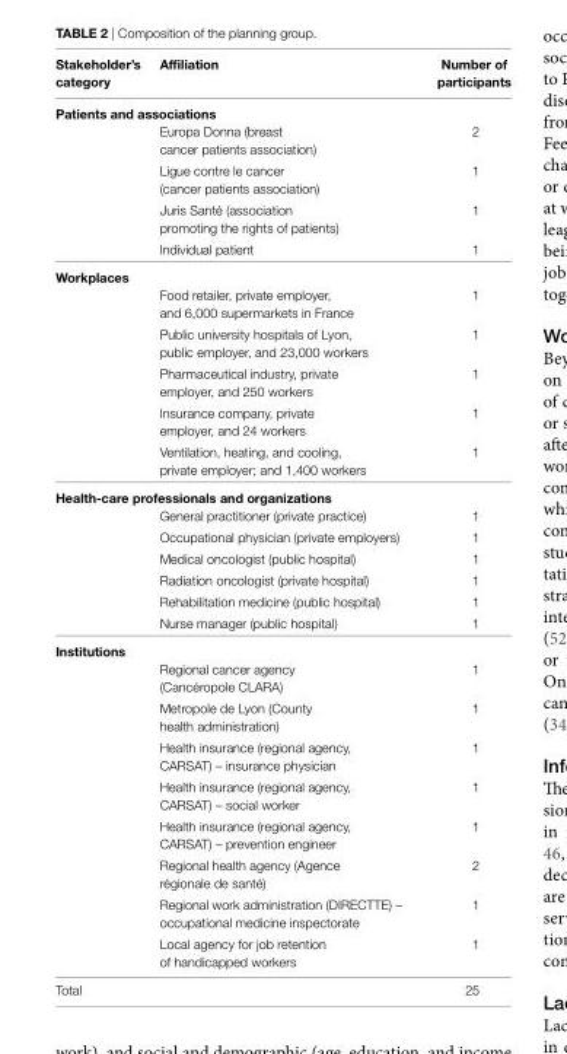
<table><thead><tr><td>stakeholder’s category</td><td>affiliation</td><td>number of participants</td></tr></thead><tbody><tr><td colspan="3">Patients and associations</td></tr><tr><td></td><td>Europa Donna (breast cancer patients association)</td><td>2</td></tr><tr><td></td><td>Ligue contre le cancer (cancer patients association)</td><td>1</td></tr><tr><td></td><td>Juris Santé (association promoting the rights of patients)</td><td>1</td></tr><tr><td></td><td>Individual patient</td><td>1</td></tr><tr><td colspan="3">Workplaces</td></tr><tr><td></td><td>Food retailer, private employer, and 6,000 supermarkets in France</td><td>1</td></tr><tr><td></td><td>Public university hospitals of Lyon, public employer, and 23,000 workers</td><td>1</td></tr><tr><td></td><td>Pharmaceutical industry, private employer, and 250 workers</td><td>1</td></tr><tr><td></td><td>Insurance company, private employer, and 24 workers</td><td>1</td></tr><tr><td></td><td>Ventilation, heating, and cooling, private employer; and 1,400 workers</td><td>1</td></tr><tr><td colspan="3">health-care professionals and organizations</td></tr><tr><td></td><td>General practitioner (private practice)</td><td>1</td></tr><tr><td></td><td>Occupational physician (private employers)</td><td>1</td></tr><tr><td></td><td>Medical oncologist (public hospital)</td><td>1</td></tr><tr><td></td><td>Radiation oncologist (private hospital)</td><td>1</td></tr><tr><td></td><td>Rehabilitation medicine (public hospital)</td><td>1</td></tr><tr><td></td><td>Nurse manager (public hospital)</td><td>1</td></tr><tr><td colspan="3">institutions</td></tr><tr><td></td><td>Regional cancer agency (Cancéropole CLARA)</td><td>1</td></tr><tr><td></td><td>Metropole de Lyon (County health administration)</td><td>1</td></tr><tr><td></td><td>Health insurance (regional agency, CARSAT) – insurance physician</td><td>1</td></tr><tr><td></td><td>Health insurance (regional agency, CARSAT) – social worker</td><td>1</td></tr><tr><td></td><td>Health insurance (regional agency, CARSAT) – prevention engineer</td><td>1</td></tr><tr><td></td><td>Regional health agency (Agence régionale de santé)</td><td>2</td></tr><tr><td></td><td>Regional work administration (DIRECTTE) – occupational medicine inspectorate</td><td>1</td></tr><tr><td></td><td>Local agency for job retention of handicapped workers</td><td>1</td></tr><tr><td>Total</td><td></td><td>25</td></tr></tbody></table>